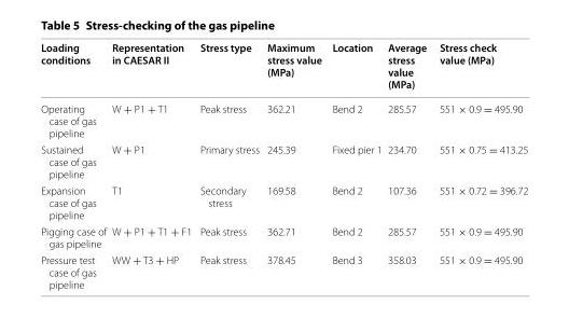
<table><thead><tr><td>Loading conditions</td><td>Representation in CAESAR II</td><td>Stress type</td><td>Maximum stress value (MPa)</td><td>Location</td><td>Average stress value (MPa)</td><td>Stress check value (MPa)</td></tr></thead><tbody><tr><td>Operating case of gas pipeline</td><td>W + P1 + T1</td><td>Peak stress</td><td>362.21</td><td>Bend 2</td><td>285.57</td><td>551 × 0.9 = 495.90</td></tr><tr><td>Sustained case of gas pipeline</td><td>W + P1</td><td>Primary stress</td><td>245.39</td><td>Fixed pier 1</td><td>234.70</td><td>551 × 0.75 = 413.25</td></tr><tr><td>Expansion case of gas pipeline</td><td>T1</td><td>Secondary stress</td><td>169.58</td><td>Bend 2</td><td>107.36</td><td>551 × 0.72 = 396.72</td></tr><tr><td>Pigging case of gas pipeline</td><td>W + P1 + T1 + F1</td><td>Peak stress</td><td>362.71</td><td>Bend 2</td><td>285.57</td><td>551 × 0.9 = 495.90</td></tr><tr><td>Pressure test case of gas pipeline</td><td>WW + T3 + HP</td><td>Peak stress</td><td>378.45</td><td>Bend 3</td><td>358.03</td><td>551 × 0.9 = 495.90</td></tr></tbody></table>